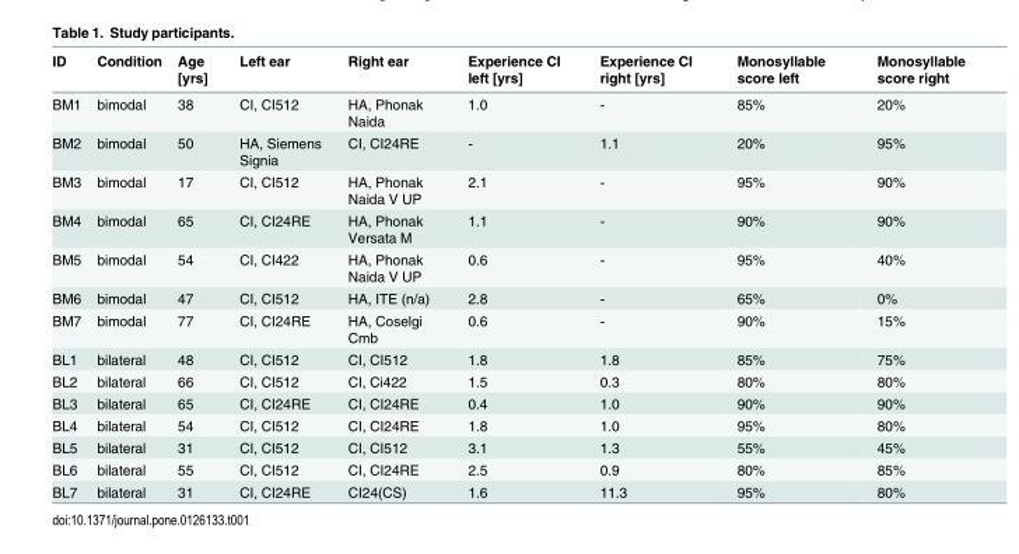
<table><thead><tr><td>ID</td><td>Condition</td><td>Age [yrs]</td><td>Left ear</td><td>Right ear</td><td>Experience CI left [yrs]</td><td>Experience CI right [yrs]</td><td>Monosyllable score left</td><td>Monosyllable score right</td></tr></thead><tbody><tr><td>BM1</td><td>bimodal</td><td>38</td><td>CI, CI512</td><td>HA, Phonak Naida</td><td>1.0</td><td>-</td><td>85%</td><td>20%</td></tr><tr><td>BM2</td><td>bimodal</td><td>50</td><td>HA, Siemens Signia</td><td>CI, CI24RE</td><td>-</td><td>1.1</td><td>20%</td><td>95%</td></tr><tr><td>BM3</td><td>bimodal</td><td>17</td><td>CI, CI512</td><td>HA, Phonak Naida V UP</td><td>2.1</td><td>-</td><td>95%</td><td>90%</td></tr><tr><td>BM4</td><td>bimodal</td><td>65</td><td>CI, CI24RE</td><td>HA, Phonak Versata M</td><td>1.1</td><td>-</td><td>90%</td><td>90%</td></tr><tr><td>BM5</td><td>bimodal</td><td>54</td><td>CI, CI422</td><td>HA, Phonak Naida V UP</td><td>0.6</td><td>-</td><td>95%</td><td>40%</td></tr><tr><td>BM6</td><td>bimodal</td><td>47</td><td>CI, CI512</td><td>HA, ITE (n/a)</td><td>2.8</td><td>-</td><td>65%</td><td>0%</td></tr><tr><td>BM7</td><td>bimodal</td><td>77</td><td>CI, CI24RE</td><td>HA, Coselgi Cmb</td><td>0.6</td><td>-</td><td>90%</td><td>15%</td></tr><tr><td>BL1</td><td>bilateral</td><td>48</td><td>CI, CI512</td><td>CI, CI512</td><td>1.8</td><td>1.8</td><td>85%</td><td>75%</td></tr><tr><td>BL2</td><td>bilateral</td><td>66</td><td>CI, CI512</td><td>CI, Ci422</td><td>1.5</td><td>0.3</td><td>80%</td><td>80%</td></tr><tr><td>BL3</td><td>bilateral</td><td>65</td><td>CI, CI24RE</td><td>CI, CI24RE</td><td>0.4</td><td>1.0</td><td>90%</td><td>90%</td></tr><tr><td>BL4</td><td>bilateral</td><td>54</td><td>CI, CI512</td><td>CI, CI24RE</td><td>1.8</td><td>1.0</td><td>95%</td><td>80%</td></tr><tr><td>BL5</td><td>bilateral</td><td>31</td><td>CI, CI512</td><td>CI, CI512</td><td>3.1</td><td>1.3</td><td>55%</td><td>45%</td></tr><tr><td>BL6</td><td>bilateral</td><td>55</td><td>CI, CI512</td><td>CI, CI24RE</td><td>2.5</td><td>0.9</td><td>80%</td><td>85%</td></tr><tr><td>BL7</td><td>bilateral</td><td>31</td><td>CI, CI24RE</td><td>CI24(CS)</td><td>1.6</td><td>11.3</td><td>95%</td><td>80%</td></tr></tbody></table>